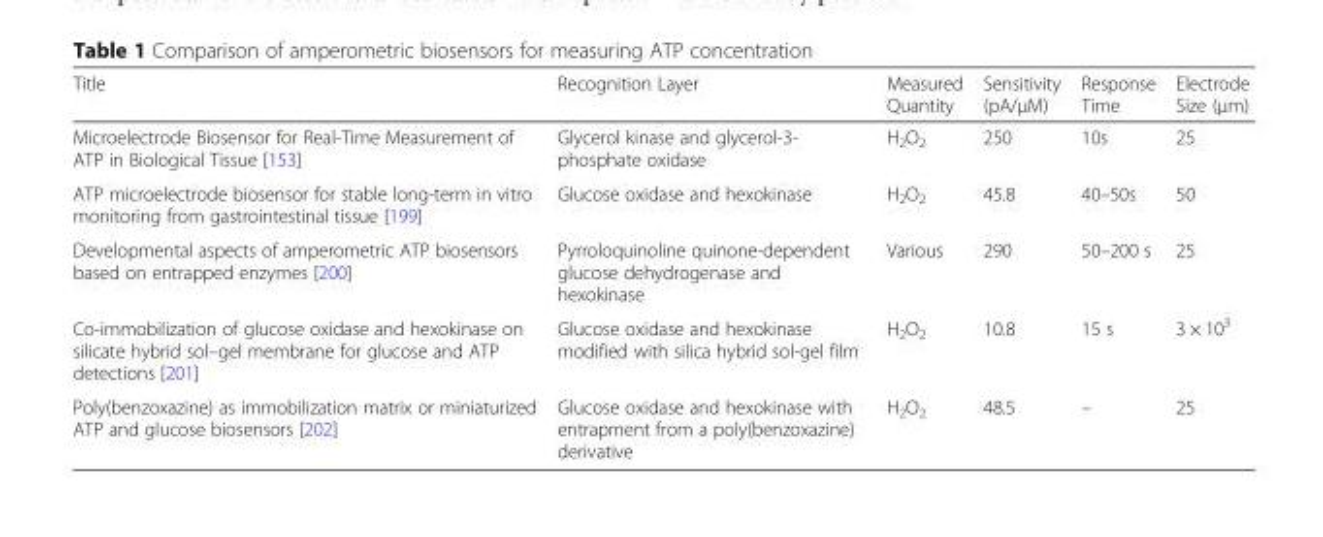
<table><thead><tr><td>Title</td><td>Recognition Layer</td><td>Measured Quantity</td><td>Sensitivity (pA/μM)</td><td>Response Time</td><td>Electrode Size (μm)</td></tr></thead><tbody><tr><td>Microelectrode Biosensor for Real-Time Measurement of ATP in Biological Tissue [153]</td><td>Glycerol kinase and glycerol-3- phosphate oxidase</td><td>H<sub>2</sub>O<sub>2</sub></td><td>250</td><td>10s</td><td>25</td></tr><tr><td>ATP microelectrode biosensor for stable long-term in vitro monitoring from gastrointestinal tissue [199]</td><td>Glucose oxidase and hexokinase</td><td>H<sub>2</sub>O<sub>2</sub></td><td>45.8</td><td>40–50s</td><td>50</td></tr><tr><td>Developmental aspects of amperometric ATP biosensors based on entrapped enzymes [200]</td><td>Pyrroloquinoline quinone-dependent glucose dehydrogenase and hexokinase</td><td>Various</td><td>290</td><td>50–200 s</td><td>25</td></tr><tr><td>Co-immobilization of glucose oxidase and hexokinase on silicate hybrid sol–gel membrane for glucose and ATP detections [201]</td><td>Glucose oxidase and hexokinase modified with silica hybrid sol-gel film</td><td>H<sub>2</sub>O<sub>2</sub></td><td>10.8</td><td>15 s</td><td>3 × 10<sup>3</sup></td></tr><tr><td>Poly(benzoxazine) as immobilization matrix or miniaturized ATP and glucose biosensors [202]</td><td>Glucose oxidase and hexokinase with entrapment from a poly(benzoxazine) derivative</td><td>H<sub>2</sub>O<sub>2</sub></td><td>48.5</td><td>–</td><td>25</td></tr></tbody></table>